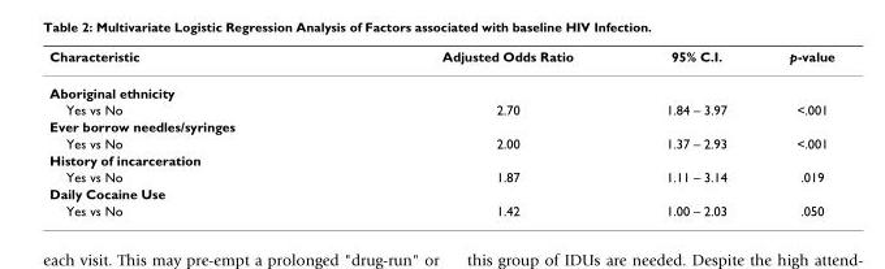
<table><thead><tr><td>Characteristic</td><td>Adjusted Odds Ratio</td><td>95% C.I.</td><td>p-value</td></tr></thead><tbody><tr><td colspan="4">Aboriginal ethnicity</td></tr><tr><td>Yes vs No</td><td>2.70</td><td>1.84 – 3.97</td><td>&lt;.001</td></tr><tr><td colspan="4">Ever borrow needles/syringes</td></tr><tr><td>Yes vs No</td><td>2.00</td><td>1.37 – 2.93</td><td>&lt;.001</td></tr><tr><td colspan="4">History of incarceration</td></tr><tr><td>Yes vs No</td><td>1.87</td><td>1.11 – 3.14</td><td>.019</td></tr><tr><td colspan="4">Daily Cocaine Use</td></tr><tr><td>Yes vs No</td><td>1.42</td><td>1.00 – 2.03</td><td>.050</td></tr></tbody></table>